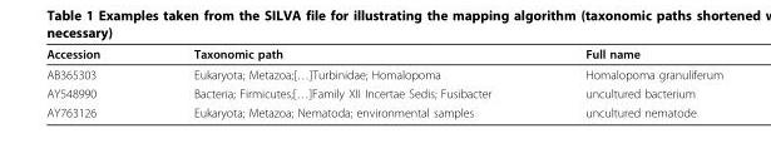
<table><thead><tr><td>Accession</td><td>Taxonomic path</td><td>Full name</td></tr></thead><tbody><tr><td>AB365303</td><td>Eukaryota; Metazoa;[…]Turbinidae; Homalopoma</td><td>Homalopoma granuliferum</td></tr><tr><td>AY548990</td><td>Bacteria; Firmicutes;[…]Family XII Incertae Sedis; Fusibacter</td><td>uncultured bacterium</td></tr><tr><td>AY763126</td><td>Eukaryota; Metazoa; Nematoda; environmental samples</td><td>uncultured nematode</td></tr></tbody></table>